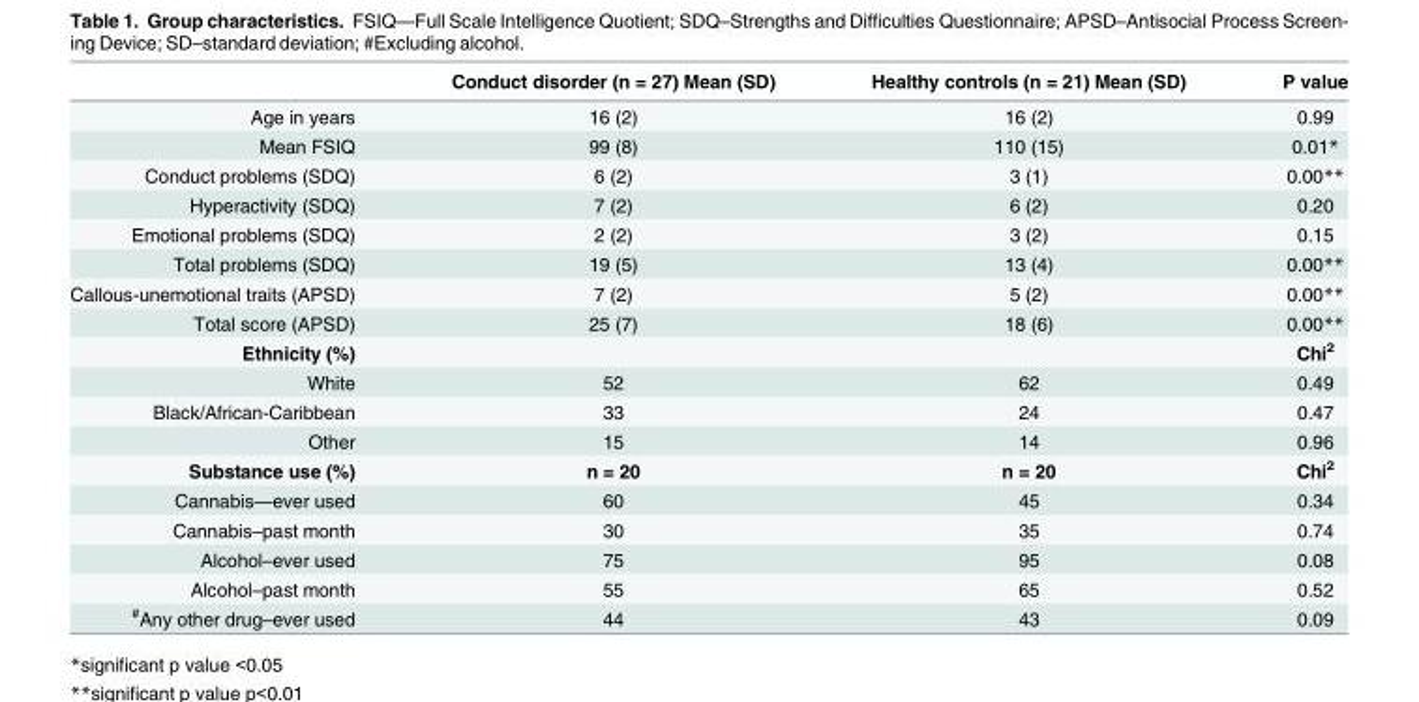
<table><thead><tr><td></td><td>Conduct disorder (n = 27) Mean (SD)</td><td>Healthy controls (n = 21) Mean (SD)</td><td>P value</td></tr></thead><tbody><tr><td>Age in years</td><td>16 (2)</td><td>16 (2)</td><td>0.99</td></tr><tr><td>Mean FSIQ</td><td>99 (8)</td><td>110 (15)</td><td>0.01*</td></tr><tr><td>Conduct problems (SDQ)</td><td>6 (2)</td><td>3 (1)</td><td>0.00**</td></tr><tr><td>Hyperactivity (SDQ)</td><td>7 (2)</td><td>6 (2)</td><td>0.20</td></tr><tr><td>Emotional problems (SDQ)</td><td>2 (2)</td><td>3 (2)</td><td>0.15</td></tr><tr><td>Total problems (SDQ)</td><td>19 (5)</td><td>13 (4)</td><td>0.00**</td></tr><tr><td>Callous-unemotional traits (APSD)</td><td>7 (2)</td><td>5 (2)</td><td>0.00**</td></tr><tr><td>Total score (APSD)</td><td>25 (7)</td><td>18 (6)</td><td>0.00**</td></tr><tr><td>Ethnicity (%)</td><td></td><td></td><td>Chi<sup>2</sup></td></tr><tr><td>White</td><td>52</td><td>62</td><td>0.49</td></tr><tr><td>Black/African-Caribbean</td><td>33</td><td>24</td><td>0.47</td></tr><tr><td>Other</td><td>15</td><td>14</td><td>0.96</td></tr><tr><td>Substance use (%)</td><td>n = 20</td><td>n = 20</td><td>Chi<sup>2</sup></td></tr><tr><td>Cannabis—ever used</td><td>60</td><td>45</td><td>0.34</td></tr><tr><td>Cannabis–past month</td><td>30</td><td>35</td><td>0.74</td></tr><tr><td>Alcohol–ever used</td><td>75</td><td>95</td><td>0.08</td></tr><tr><td>Alcohol–past month</td><td>55</td><td>65</td><td>0.52</td></tr><tr><td><sup>#</sup>Any other drug–ever used</td><td>44</td><td>43</td><td>0.09</td></tr></tbody></table>